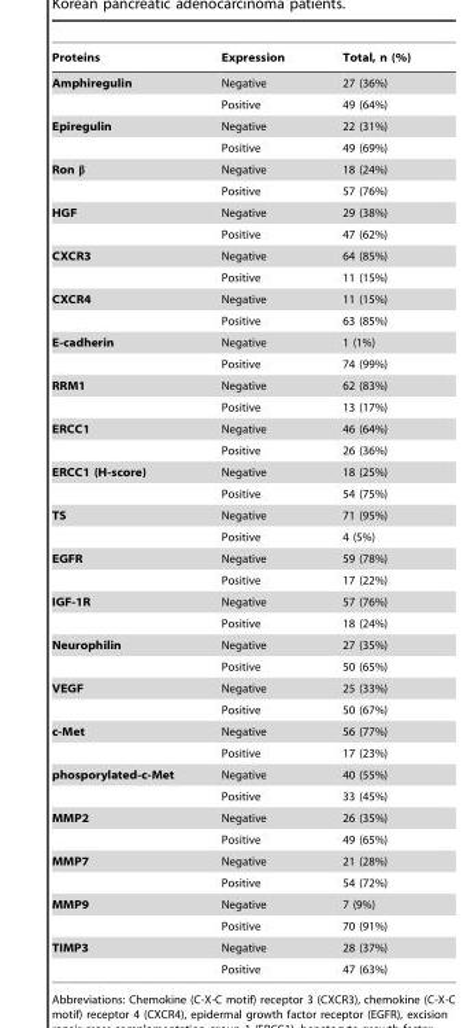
<table><thead><tr><td>Proteins</td><td>Expression</td><td>Total, n (%)</td></tr></thead><tbody><tr><td rowspan="2">Amphiregulin</td><td>Negative</td><td>27 (36%)</td></tr><tr><td>Positive</td><td>49 (64%)</td></tr><tr><td rowspan="2">Epiregulin</td><td>Negative</td><td>22 (31%)</td></tr><tr><td>Positive</td><td>49 (69%)</td></tr><tr><td rowspan="2">Ron β</td><td>Negative</td><td>18 (24%)</td></tr><tr><td>Positive</td><td>57 (76%)</td></tr><tr><td rowspan="2">HGF</td><td>Negative</td><td>29 (38%)</td></tr><tr><td>Positive</td><td>47 (62%)</td></tr><tr><td rowspan="2">CXCR3</td><td>Negative</td><td>64 (85%)</td></tr><tr><td>Positive</td><td>11 (15%)</td></tr><tr><td rowspan="2">CXCR4</td><td>Negative</td><td>11 (15%)</td></tr><tr><td>Positive</td><td>63 (85%)</td></tr><tr><td rowspan="2">E-cadherin</td><td>Negative</td><td>1 (1%)</td></tr><tr><td>Positive</td><td>74 (99%)</td></tr><tr><td rowspan="2">RRM1</td><td>Negative</td><td>62 (83%)</td></tr><tr><td>Positive</td><td>13 (17%)</td></tr><tr><td rowspan="2">ERCC1</td><td>Negative</td><td>46 (64%)</td></tr><tr><td>Positive</td><td>26 (36%)</td></tr><tr><td rowspan="2">ERCC1 (H-score)</td><td>Negative</td><td>18 (25%)</td></tr><tr><td>Positive</td><td>54 (75%)</td></tr><tr><td rowspan="2">TS</td><td>Negative</td><td>71 (95%)</td></tr><tr><td>Positive</td><td>4 (5%)</td></tr><tr><td rowspan="2">EGFR</td><td>Negative</td><td>59 (78%)</td></tr><tr><td>Positive</td><td>17 (22%)</td></tr><tr><td rowspan="2">IGF-1R</td><td>Negative</td><td>57 (76%)</td></tr><tr><td>Positive</td><td>18 (24%)</td></tr><tr><td rowspan="2">Neurophilin</td><td>Negative</td><td>27 (35%)</td></tr><tr><td>Positive</td><td>50 (65%)</td></tr><tr><td rowspan="2">VEGF</td><td>Negative</td><td>25 (33%)</td></tr><tr><td>Positive</td><td>50 (67%)</td></tr><tr><td rowspan="2">c-Met</td><td>Negative</td><td>56 (77%)</td></tr><tr><td>Positive</td><td>17 (23%)</td></tr><tr><td rowspan="2">phosporylated-c-Met</td><td>Negative</td><td>40 (55%)</td></tr><tr><td>Positive</td><td>33 (45%)</td></tr><tr><td rowspan="2">MMP2</td><td>Negative</td><td>26 (35%)</td></tr><tr><td>Positive</td><td>49 (65%)</td></tr><tr><td rowspan="2">MMP7</td><td>Negative</td><td>21 (28%)</td></tr><tr><td>Positive</td><td>54 (72%)</td></tr><tr><td rowspan="2">MMP9</td><td>Negative</td><td>7 (9%)</td></tr><tr><td>Positive</td><td>70 (91%)</td></tr><tr><td rowspan="2">TIMP3</td><td>Negative</td><td>28 (37%)</td></tr><tr><td>Positive</td><td>47 (63%)</td></tr></tbody></table>